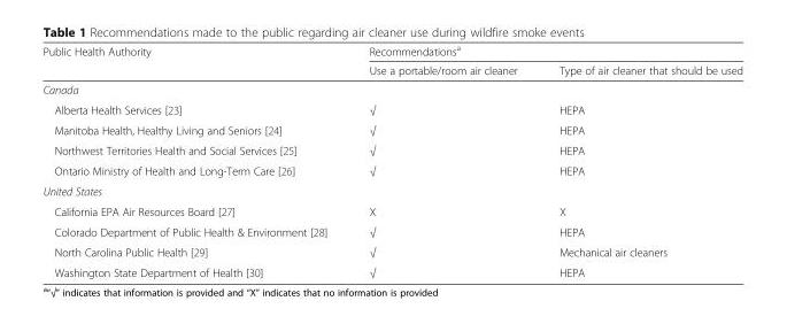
<table><thead><tr><td rowspan="2">Public Health Authority</td><td colspan="2">Recommendations<sup>a</sup></td></tr><tr><td>Use a portable/room air cleaner</td><td>Type of air cleaner that should be used</td></tr></thead><tbody><tr><td colspan="3">Canada</td></tr><tr><td>Alberta Health Services [23]</td><td>√</td><td>HEPA</td></tr><tr><td>Manitoba Health, Healthy Living and Seniors [24]</td><td>√</td><td>HEPA</td></tr><tr><td>Northwest Territories Health and Social Services [25]</td><td>√</td><td>HEPA</td></tr><tr><td>Ontario Ministry of Health and Long-Term Care [26]</td><td>√</td><td>HEPA</td></tr><tr><td colspan="3">United States</td></tr><tr><td>California EPA Air Resources Board [27]</td><td>X</td><td>X</td></tr><tr><td>Colorado Department of Public Health &amp; Environment [28]</td><td>√</td><td>HEPA</td></tr><tr><td>North Carolina Public Health [29]</td><td>√</td><td>Mechanical air cleaners</td></tr><tr><td>Washington State Department of Health [30]</td><td>√</td><td>HEPA</td></tr></tbody></table>